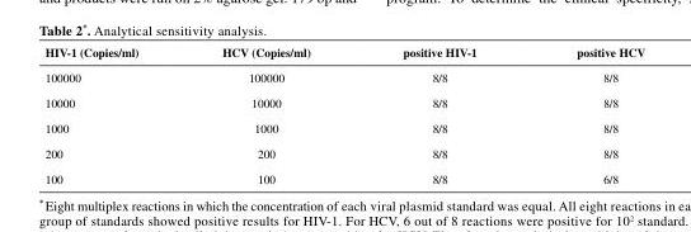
<table><thead><tr><td>HIV-1 (Copies/ml)</td><td>HCV (Copies/ml)</td><td>positive HIV-1</td><td>positive HCV</td></tr></thead><tbody><tr><td>100000</td><td>100000</td><td>8/8</td><td>8/8</td></tr><tr><td>10000</td><td>10000</td><td>8/8</td><td>8/8</td></tr><tr><td>1000</td><td>1000</td><td>8/8</td><td>8/8</td></tr><tr><td>200</td><td>200</td><td>8/8</td><td>8/8</td></tr><tr><td>100</td><td>100</td><td>8/8</td><td>6/8</td></tr></tbody></table>